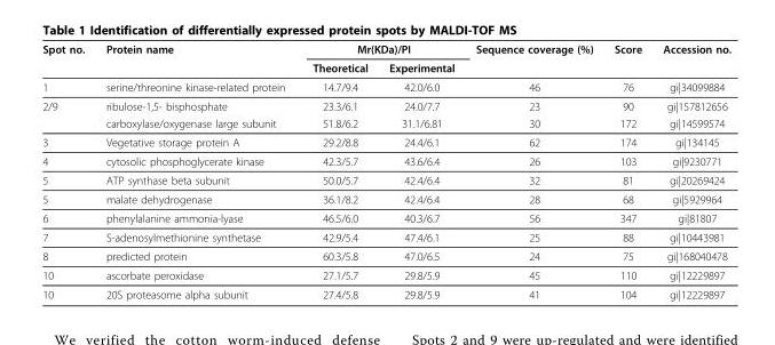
<table><thead><tr><td rowspan="2">Spot no.</td><td rowspan="2">Protein name</td><td colspan="2">Mr(KDa)/PI</td><td rowspan="2">Sequence coverage (%)</td><td rowspan="2">Score</td><td rowspan="2">Accession no.</td></tr><tr><td>Theoretical</td><td>Experimental</td></tr></thead><tbody><tr><td>1</td><td>serine/threonine kinase-related protein</td><td>14.7/9.4</td><td>42.0/6.0</td><td>46</td><td>76</td><td>gi|34099884</td></tr><tr><td rowspan="2">2/9</td><td>ribulose-1,5- bisphosphate</td><td>23.3/6.1</td><td>24.0/7.7</td><td>23</td><td>90</td><td>gi|157812656</td></tr><tr><td>carboxylase/oxygenase large subunit</td><td>51.8/6.2</td><td>31.1/6.81</td><td>30</td><td>172</td><td>gi|14599574</td></tr><tr><td>3</td><td>Vegetative storage protein A</td><td>29.2/8.8</td><td>24.4/6.1</td><td>62</td><td>174</td><td>gi|134145</td></tr><tr><td>4</td><td>cytosolic phosphoglycerate kinase</td><td>42.3/5.7</td><td>43.6/6.4</td><td>26</td><td>103</td><td>gi|9230771</td></tr><tr><td>5</td><td>ATP synthase beta subunit</td><td>50.0/5.7</td><td>42.4/6.4</td><td>32</td><td>81</td><td>gi|20269424</td></tr><tr><td>5</td><td>malate dehydrogenase</td><td>36.1/8.2</td><td>42.4/6.4</td><td>28</td><td>68</td><td>gi|5929964</td></tr><tr><td>6</td><td>phenylalanine ammonia-lyase</td><td>46.5/6.0</td><td>40.3/6.7</td><td>56</td><td>347</td><td>gi|81807</td></tr><tr><td>7</td><td>S-adenosylmethionine synthetase</td><td>42.9/5.4</td><td>47.4/6.1</td><td>25</td><td>88</td><td>gi|10443981</td></tr><tr><td>8</td><td>predicted protein</td><td>60.3/5.8</td><td>47.0/6.5</td><td>24</td><td>75</td><td>gi|168040478</td></tr><tr><td>10</td><td>ascorbate peroxidase</td><td>27.1/5.7</td><td>29.8/5.9</td><td>45</td><td>110</td><td>gi|12229897</td></tr><tr><td>10</td><td>20S proteasome alpha subunit</td><td>27.4/5.8</td><td>29.8/5.9</td><td>41</td><td>104</td><td>gi|12229897</td></tr></tbody></table>